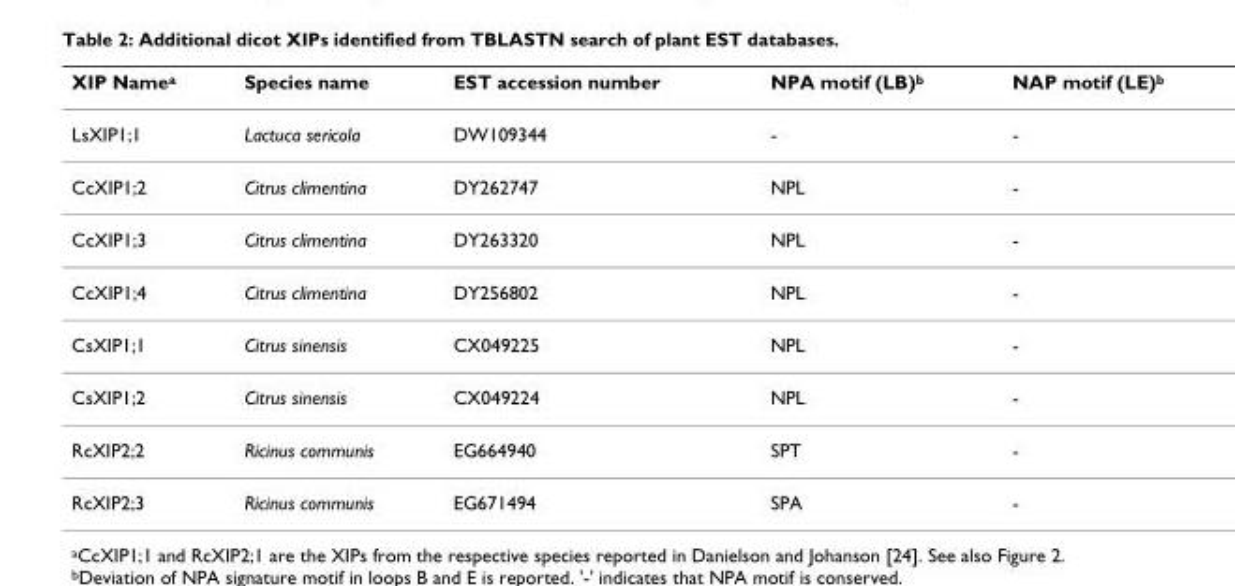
<table><thead><tr><td>XIP Name<sup>a</sup></td><td>Species name</td><td>EST accession number</td><td>NPA motif (LB)<sup>b</sup></td><td>NAP motif (LE)<sup>b</sup></td></tr></thead><tbody><tr><td>LsXIP1;1</td><td>Lactuca sericola</td><td>DW109344</td><td>-</td><td>-</td></tr><tr><td>CcXIP1;2</td><td>Citrus climentina</td><td>DY262747</td><td>NPL</td><td>-</td></tr><tr><td>CcXIP1;3</td><td>Citrus climentina</td><td>DY263320</td><td>NPL</td><td>-</td></tr><tr><td>CcXIP1;4</td><td>Citrus climentina</td><td>DY256802</td><td>NPL</td><td>-</td></tr><tr><td>CsXIP1;1</td><td>Citrus sinensis</td><td>CX049225</td><td>NPL</td><td>-</td></tr><tr><td>CsXIP1;2</td><td>Citrus sinensis</td><td>CX049224</td><td>NPL</td><td>-</td></tr><tr><td>RcXIP2;2</td><td>Ricinus communis</td><td>EG664940</td><td>SPT</td><td>-</td></tr><tr><td>RcXIP2;3</td><td>Ricinus communis</td><td>EG671494</td><td>SPA</td><td>-</td></tr></tbody></table>